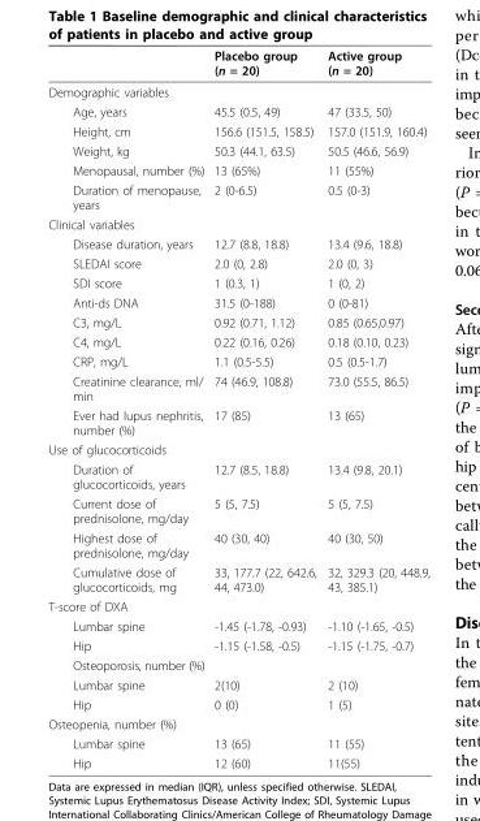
<table><thead><tr><td></td><td>Placebo group (n = 20)</td><td>Active group (n = 20)</td></tr></thead><tbody><tr><td colspan="3">Demographic variables</td></tr><tr><td>Age, years</td><td>45.5 (0.5, 49)</td><td>47 (33.5, 50)</td></tr><tr><td>Height, cm</td><td>156.6 (151.5, 158.5)</td><td>157.0 (151.9, 160.4)</td></tr><tr><td>Weight, kg</td><td>50.3 (44.1, 63.5)</td><td>50.5 (46.6, 56.9)</td></tr><tr><td>Menopausal, number (%)</td><td>13 (65%)</td><td>11 (55%)</td></tr><tr><td>Duration of menopause, years</td><td>2 (0-6.5)</td><td>0.5 (0-3)</td></tr><tr><td colspan="3">Clinical variables</td></tr><tr><td>Disease duration, years</td><td>12.7 (8.8, 18.8)</td><td>13.4 (9.6, 18.8)</td></tr><tr><td>SLEDAI score</td><td>2.0 (0, 2.8)</td><td>2.0 (0, 3)</td></tr><tr><td>SDI score</td><td>1 (0.3, 1)</td><td>1 (0, 2)</td></tr><tr><td>Anti-ds DNA</td><td>31.5 (0-188)</td><td>0 (0-81)</td></tr><tr><td>C3, mg/L</td><td>0.92 (0.71, 1.12)</td><td>0.85 (0.65,0.97)</td></tr><tr><td>C4, mg/L</td><td>0.22 (0.16, 0.26)</td><td>0.18 (0.10, 0.23)</td></tr><tr><td>CRP, mg/L</td><td>1.1 (0.5-5.5)</td><td>0.5 (0.5-1.7)</td></tr><tr><td>Creatinine clearance, ml/ min</td><td>74 (46.9, 108.8)</td><td>73.0 (55.5, 86.5)</td></tr><tr><td>Ever had lupus nephritis, number (%)</td><td>17 (85)</td><td>13 (65)</td></tr><tr><td colspan="3">Use of glucocorticoids</td></tr><tr><td>Duration of glucocorticoids, years</td><td>12.7 (8.5, 18.8)</td><td>13.4 (9.8, 20.1)</td></tr><tr><td>Current dose of prednisolone, mg/day</td><td>5 (5, 7.5)</td><td>5 (5, 7.5)</td></tr><tr><td>Highest dose of prednisolone, mg/day</td><td>40 (30, 40)</td><td>40 (30, 50)</td></tr><tr><td>Cumulative dose of glucocorticoids, mg</td><td>33, 177.7 (22, 642.6, 44, 473.0)</td><td>32, 329.3 (20, 448.9, 43, 385.1)</td></tr><tr><td colspan="3">T-score of DXA</td></tr><tr><td>Lumbar spine</td><td>-1.45 (-1.78, -0.93)</td><td>-1.10 (-1.65, -0.5)</td></tr><tr><td>Hip</td><td>-1.15 (-1.58, -0.5)</td><td>-1.15 (-1.75, -0.7)</td></tr><tr><td colspan="3">Osteoporosis, number (%)</td></tr><tr><td>Lumbar spine</td><td>2(10)</td><td>2 (10)</td></tr><tr><td>Hip</td><td>0 (0)</td><td>1 (5)</td></tr><tr><td colspan="3">Osteopenia, number (%)</td></tr><tr><td>Lumbar spine</td><td>13 (65)</td><td>11 (55)</td></tr><tr><td>Hip</td><td>12 (60)</td><td>11(55)</td></tr></tbody></table>